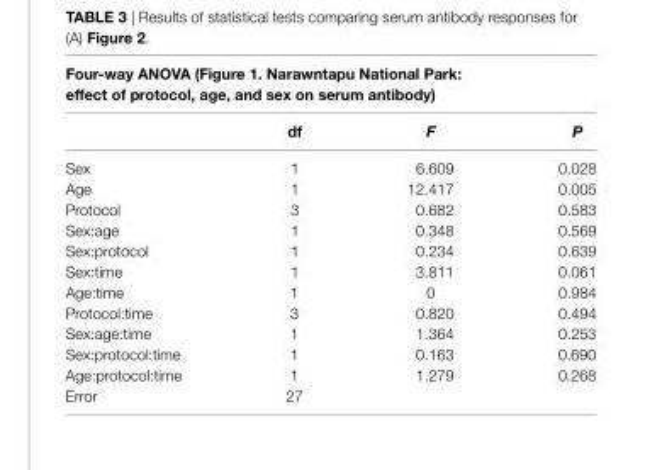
<table><thead><tr><td colspan="4">Four-way anOVa (Figure 1. narawntapu national Park: effect of protocol, age, and sex on serum antibody)</td></tr><tr><td></td><td>df</td><td>F</td><td>P</td></tr></thead><tbody><tr><td>Sex</td><td>1</td><td>6.609</td><td>0.028</td></tr><tr><td>Age</td><td>1</td><td>12.417</td><td>0.005</td></tr><tr><td>Protocol</td><td>3</td><td>0.682</td><td>0.583</td></tr><tr><td>Sex:age</td><td>1</td><td>0.348</td><td>0.569</td></tr><tr><td>Sex:protocol</td><td>1</td><td>0.234</td><td>0.639</td></tr><tr><td>Sex:time</td><td>1</td><td>3.811</td><td>0.061</td></tr><tr><td>Age:time</td><td>1</td><td>0</td><td>0.984</td></tr><tr><td>Protocol:time</td><td>3</td><td>0.820</td><td>0.494</td></tr><tr><td>Sex:age:time</td><td>1</td><td>1.364</td><td>0.253</td></tr><tr><td>Sex:protocol:time</td><td>1</td><td>0.163</td><td>0.690</td></tr><tr><td>Age:protocol:time</td><td>1</td><td>1.279</td><td>0.268</td></tr><tr><td>Error</td><td>27</td><td></td><td></td></tr></tbody></table>